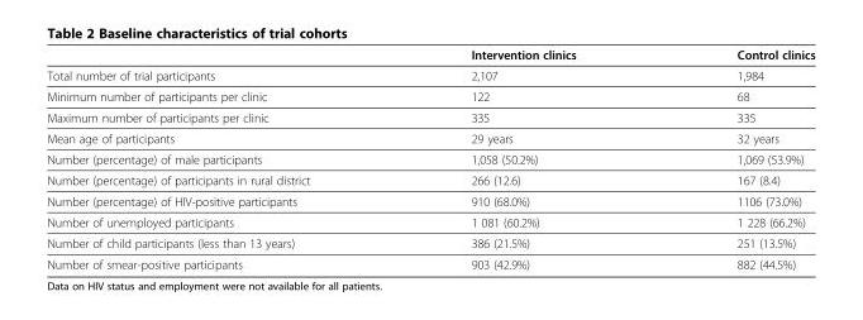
<table><thead><tr><td></td><td>Intervention clinics</td><td>Control clinics</td></tr></thead><tbody><tr><td>Total number of trial participants</td><td>2,107</td><td>1,984</td></tr><tr><td>Minimum number of participants per clinic</td><td>122</td><td>68</td></tr><tr><td>Maximum number of participants per clinic</td><td>335</td><td>335</td></tr><tr><td>Mean age of participants</td><td>29 years</td><td>32 years</td></tr><tr><td>Number (percentage) of male participants</td><td>1,058 (50.2%)</td><td>1,069 (53.9%)</td></tr><tr><td>Number (percentage) of participants in rural district</td><td>266 (12.6)</td><td>167 (8.4)</td></tr><tr><td>Number (percentage) of HIV-positive participants</td><td>910 (68.0%)</td><td>1106 (73.0%)</td></tr><tr><td>Number of unemployed participants</td><td>1 081 (60.2%)</td><td>1 228 (66.2%)</td></tr><tr><td>Number of child participants (less than 13 years)</td><td>386 (21.5%)</td><td>251 (13.5%)</td></tr><tr><td>Number of smear-positive participants</td><td>903 (42.9%)</td><td>882 (44.5%)</td></tr></tbody></table>